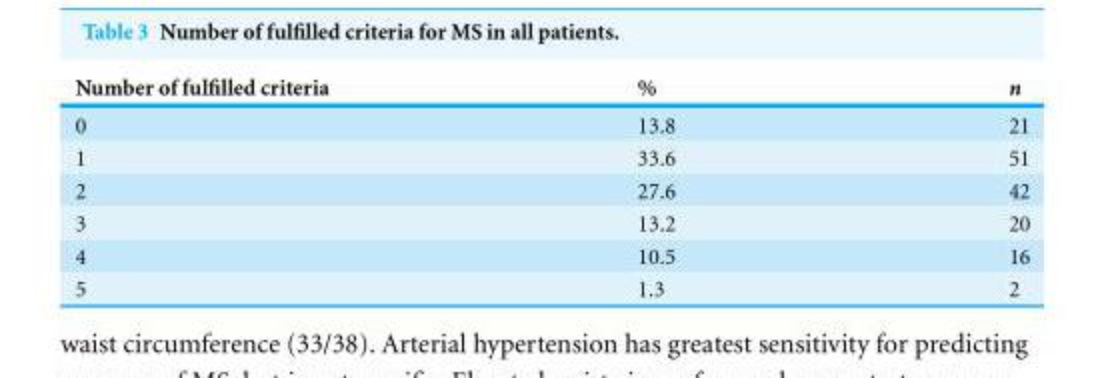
<table><thead><tr><td>Number of fulfilled criteria</td><td>%</td><td>n</td></tr></thead><tbody><tr><td>0</td><td>13.8</td><td>21</td></tr><tr><td>1</td><td>33.6</td><td>51</td></tr><tr><td>2</td><td>27.6</td><td>42</td></tr><tr><td>3</td><td>13.2</td><td>20</td></tr><tr><td>4</td><td>10.5</td><td>16</td></tr><tr><td>5</td><td>1.3</td><td>2</td></tr></tbody></table>